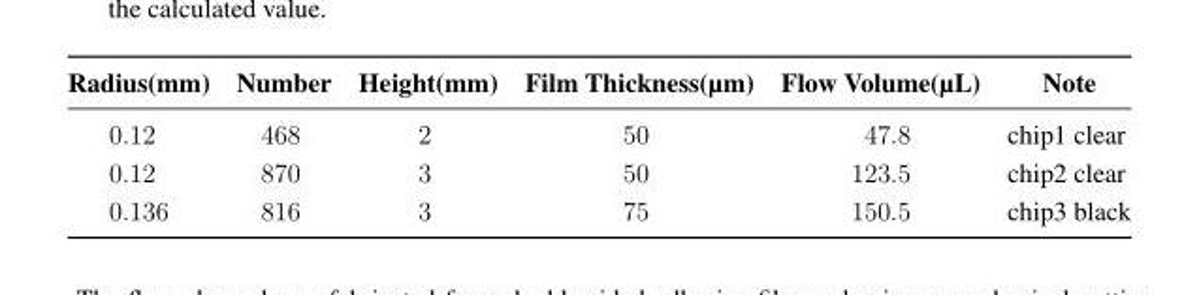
<table><thead><tr><td>Radius(mm)</td><td>Number</td><td>Height(mm)</td><td>Film Thickness(µm)</td><td>Flow Volume(µL)</td><td>Note</td></tr></thead><tbody><tr><td>0.12</td><td>468</td><td>2</td><td>50</td><td>47.8</td><td>chip1 clear</td></tr><tr><td>0.12</td><td>870</td><td>3</td><td>50</td><td>123.5</td><td>chip2 clear</td></tr><tr><td>0.136</td><td>816</td><td>3</td><td>75</td><td>150.5</td><td>chip3 black</td></tr></tbody></table>